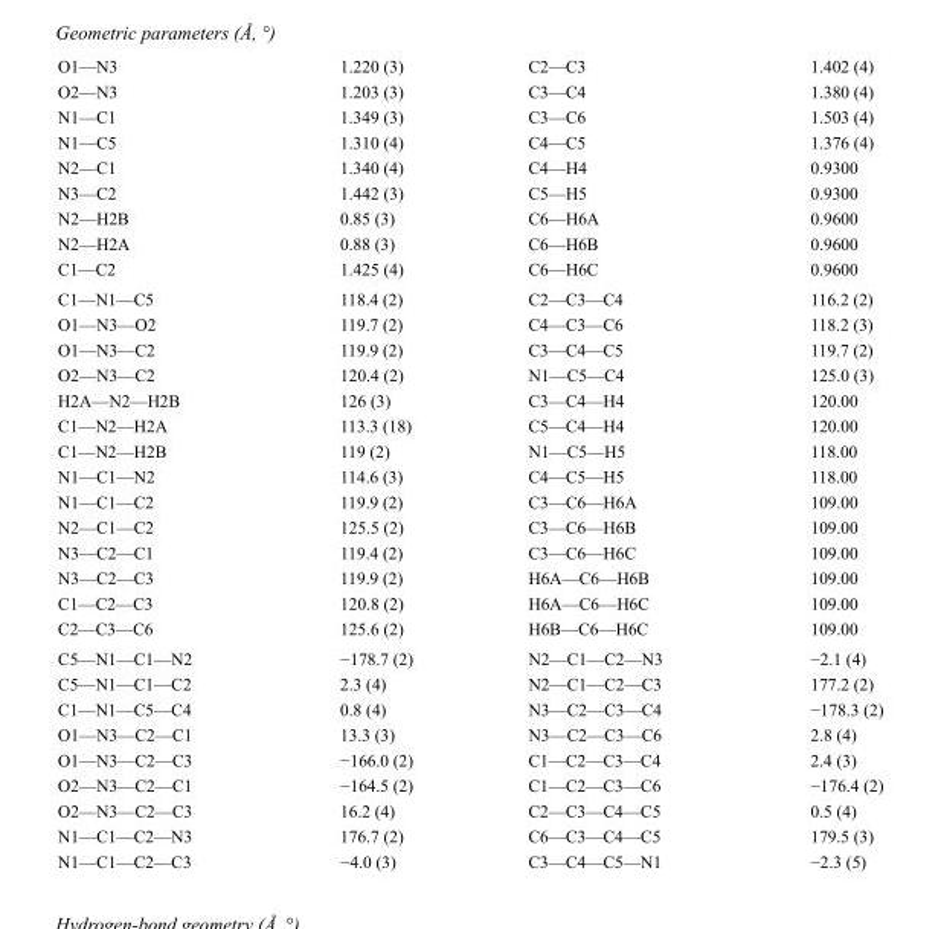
<table><tbody><tr><td>O1—N3</td><td>1.220 (3)</td><td>C2—C3</td><td>1.402 (4)</td></tr><tr><td>O2—N3</td><td>1.203 (3)</td><td>C3—C4</td><td>1.380 (4)</td></tr><tr><td>N1—C1</td><td>1.349 (3)</td><td>C3—C6</td><td>1.503 (4)</td></tr><tr><td>N1—C5</td><td>1.310 (4)</td><td>C4—C5</td><td>1.376 (4)</td></tr><tr><td>N2—C1</td><td>1.340 (4)</td><td>C4—H4</td><td>0.9300</td></tr><tr><td>N3—C2</td><td>1.442 (3)</td><td>C5—H5</td><td>0.9300</td></tr><tr><td>N2—H2B</td><td>0.85 (3)</td><td>C6—H6A</td><td>0.9600</td></tr><tr><td>N2—H2A</td><td>0.88 (3)</td><td>C6—H6B</td><td>0.9600</td></tr><tr><td>C1—C2</td><td>1.425 (4)</td><td>C6—H6C</td><td>0.9600</td></tr><tr><td>C1—N1—C5</td><td>118.4 (2)</td><td>C2—C3—C4</td><td>116.2 (2)</td></tr><tr><td>O1—N3—O2</td><td>119.7 (2)</td><td>C4—C3—C6</td><td>118.2 (3)</td></tr><tr><td>O1—N3—C2</td><td>119.9 (2)</td><td>C3—C4—C5</td><td>119.7 (2)</td></tr><tr><td>O2—N3—C2</td><td>120.4 (2)</td><td>N1—C5—C4</td><td>125.0 (3)</td></tr><tr><td>H2A—N2—H2B</td><td>126 (3)</td><td>C3—C4—H4</td><td>120.00</td></tr><tr><td>C1—N2—H2A</td><td>113.3 (18)</td><td>C5—C4—H4</td><td>120.00</td></tr><tr><td>C1—N2—H2B</td><td>119 (2)</td><td>N1—C5—H5</td><td>118.00</td></tr><tr><td>N1—C1—N2</td><td>114.6 (3)</td><td>C4—C5—H5</td><td>118.00</td></tr><tr><td>N1—C1—C2</td><td>119.9 (2)</td><td>C3—C6—H6A</td><td>109.00</td></tr><tr><td>N2—C1—C2</td><td>125.5 (2)</td><td>C3—C6—H6B</td><td>109.00</td></tr><tr><td>N3—C2—C1</td><td>119.4 (2)</td><td>C3—C6—H6C</td><td>109.00</td></tr><tr><td>N3—C2—C3</td><td>119.9 (2)</td><td>H6A—C6—H6B</td><td>109.00</td></tr><tr><td>C1—C2—C3</td><td>120.8 (2)</td><td>H6A—C6—H6C</td><td>109.00</td></tr><tr><td>C2—C3—C6</td><td>125.6 (2)</td><td>H6B—C6—H6C</td><td>109.00</td></tr><tr><td>C5—N1—C1—N2</td><td>−178.7 (2)</td><td>N2—C1—C2—N3</td><td>−2.1 (4)</td></tr><tr><td>C5—N1—C1—C2</td><td>2.3 (4)</td><td>N2—C1—C2—C3</td><td>177.2 (2)</td></tr><tr><td>C1—N1—C5—C4</td><td>0.8 (4)</td><td>N3—C2—C3—C4</td><td>−178.3 (2)</td></tr><tr><td>O1—N3—C2—C1</td><td>13.3 (3)</td><td>N3—C2—C3—C6</td><td>2.8 (4)</td></tr><tr><td>O1—N3—C2—C3</td><td>−166.0 (2)</td><td>C1—C2—C3—C4</td><td>2.4 (3)</td></tr><tr><td>O2—N3—C2—C1</td><td>−164.5 (2)</td><td>C1—C2—C3—C6</td><td>−176.4 (2)</td></tr><tr><td>O2—N3—C2—C3</td><td>16.2 (4)</td><td>C2—C3—C4—C5</td><td>0.5 (4)</td></tr><tr><td>N1—C1—C2—N3</td><td>176.7 (2)</td><td>C6—C3—C4—C5</td><td>179.5 (3)</td></tr><tr><td>N1—C1—C2—C3</td><td>−4.0 (3)</td><td>C3—C4—C5—N1</td><td>−2.3 (5)</td></tr></tbody></table>